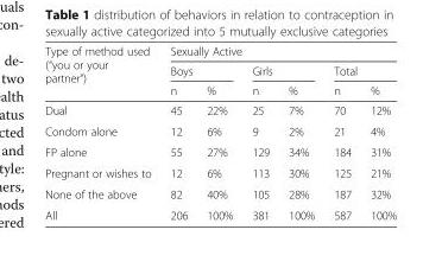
<table><thead><tr><td rowspan="3">Type of method used (“you or your partner”)</td><td colspan="6">Sexually Active</td></tr><tr><td colspan="2">Boys</td><td colspan="2">Girls</td><td colspan="2">Total</td></tr><tr><td>n</td><td>%</td><td>n</td><td>%</td><td>n</td><td>%</td></tr></thead><tbody><tr><td>Dual</td><td>45</td><td>22%</td><td>25</td><td>7%</td><td>70</td><td>12%</td></tr><tr><td>Condom alone</td><td>12</td><td>6%</td><td>9</td><td>2%</td><td>21</td><td>4%</td></tr><tr><td>FP alone</td><td>55</td><td>27%</td><td>129</td><td>34%</td><td>184</td><td>31%</td></tr><tr><td>Pregnant or wishes to</td><td>12</td><td>6%</td><td>113</td><td>30%</td><td>125</td><td>21%</td></tr><tr><td>None of the above</td><td>82</td><td>40%</td><td>105</td><td>28%</td><td>187</td><td>32%</td></tr><tr><td>All</td><td>206</td><td>100%</td><td>381</td><td>100%</td><td>587</td><td>100%</td></tr></tbody></table>